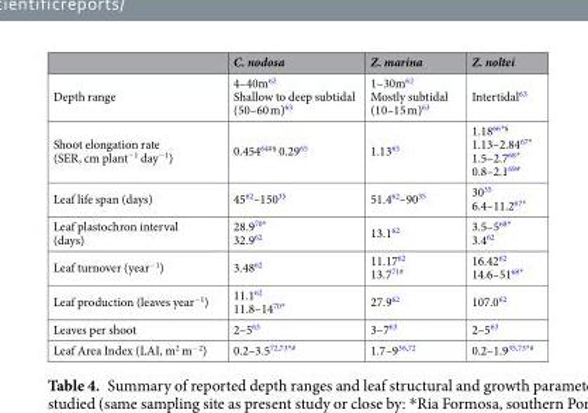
<table><thead><tr><td></td><td>C. nodosa</td><td>Z. marina</td><td>Z. noltei</td></tr></thead><tbody><tr><td>Depth range</td><td>4–40m<sup>62</sup> Shallow to deep subtidal (50–60 m)<sup>63</sup></td><td>1–30m<sup>62</sup> Mostly subtidal (10–15 m)<sup>63</sup></td><td>Intertidal<sup>63</sup></td></tr><tr><td>Shoot elongation rate (SER, cm plant<sup>−1</sup> day<sup>−1</sup>)</td><td>0.454<sup>64#§</sup> 0.29<sup>65</sup></td><td>1.13<sup>65</sup></td><td>1.18<sup>66*§</sup> 1.13–2.84<sup>67*</sup> 1.5–2.7<sup>68*</sup> 0.8–2.1<sup>69#</sup></td></tr><tr><td>Leaf life span (days)</td><td>45<sup>62</sup>–150<sup>35</sup></td><td>51.4<sup>62</sup>–90<sup>35</sup></td><td>30<sup>35</sup> 6.4–11.2<sup>67*</sup></td></tr><tr><td>Leaf plastochron interval (days)</td><td>28.9<sup>70*</sup> 32.9<sup>62</sup></td><td>13.1<sup>62</sup></td><td>3.5–5<sup>68*</sup> 3.4<sup>62</sup></td></tr><tr><td>Leaf turnover (year<sup>−1</sup>)</td><td>3.48<sup>62</sup></td><td>11.17<sup>62</sup> 13.7<sup>71#</sup></td><td>16.42<sup>62</sup> 14.6–51<sup>68*</sup></td></tr><tr><td>Leaf production (leaves year<sup>−1</sup>)</td><td>11.1<sup>62</sup> 11.8–14<sup>70*</sup></td><td>27.9<sup>62</sup></td><td>107.0<sup>62</sup></td></tr><tr><td>Leaves per shoot</td><td>2–5<sup>63</sup></td><td>3–7<sup>63</sup></td><td>2–5<sup>63</sup></td></tr><tr><td>Leaf Area Index (LAI, m<sup>2</sup> m<sup>−2</sup>)</td><td>0.2–3.5<sup>72,73*#</sup></td><td>1.7–9<sup>36,72</sup></td><td>0.2–1.9<sup>35,73*#</sup></td></tr></tbody></table>